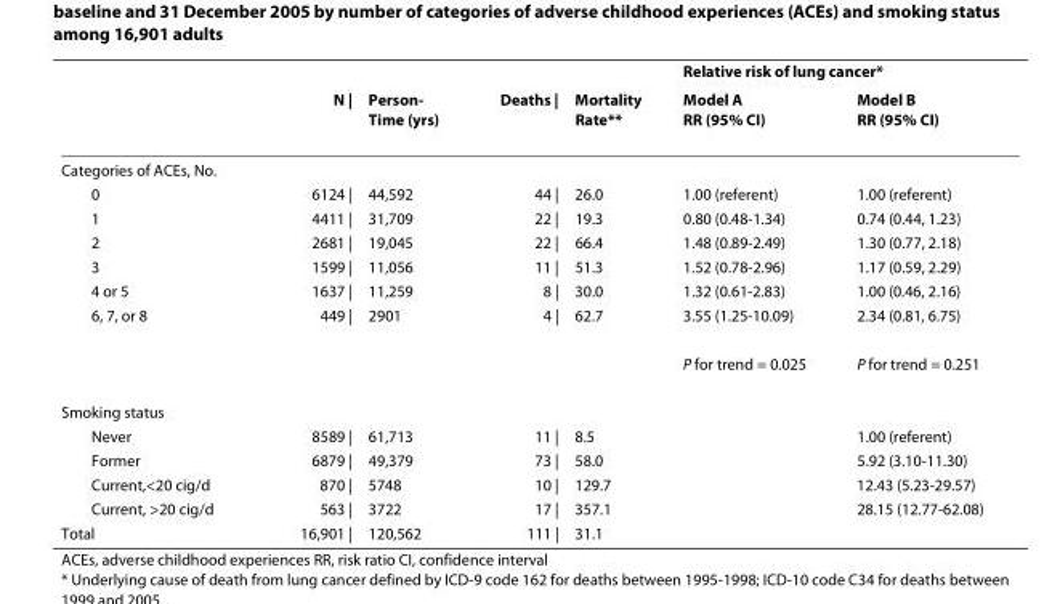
<table><thead><tr><td rowspan="2"></td><td rowspan="2">N |</td><td rowspan="2">Person- Time (yrs)</td><td rowspan="2">Deaths |</td><td rowspan="2">Mortality Rate**</td><td colspan="2">Relative risk of lung cancer*</td></tr><tr><td>Model A RR (95% CI)</td><td>Model B RR (95% CI)</td></tr></thead><tbody><tr><td colspan="7">Categories of ACEs, No.</td></tr><tr><td>0</td><td>6124 |</td><td>44,592</td><td>44 |</td><td>26.0</td><td>1.00 (referent)</td><td>1.00 (referent)</td></tr><tr><td>1</td><td>4411 |</td><td>31,709</td><td>22 |</td><td>19.3</td><td>0.80 (0.48-1.34)</td><td>0.74 (0.44, 1.23)</td></tr><tr><td>2</td><td>2681 |</td><td>19,045</td><td>22 |</td><td>66.4</td><td>1.48 (0.89-2.49)</td><td>1.30 (0.77, 2.18)</td></tr><tr><td>3</td><td>1599 |</td><td>11,056</td><td>11 |</td><td>51.3</td><td>1.52 (0.78-2.96)</td><td>1.17 (0.59, 2.29)</td></tr><tr><td>4 or 5</td><td>1637 |</td><td>11,259</td><td>8 |</td><td>30.0</td><td>1.32 (0.61-2.83)</td><td>1.00 (0.46, 2.16)</td></tr><tr><td rowspan="2">6, 7, or 8</td><td>449 |</td><td>2901</td><td>4 |</td><td>62.7</td><td>3.55 (1.25-10.09)</td><td>2.34 (0.81, 6.75)</td></tr><tr><td></td><td></td><td></td><td></td><td>P for trend = 0.025</td><td>P for trend = 0.251</td></tr><tr><td colspan="7">Smoking status</td></tr><tr><td>Never</td><td>8589 |</td><td>61,713</td><td>11 |</td><td>8.5</td><td></td><td>1.00 (referent)</td></tr><tr><td>Former</td><td>6879 |</td><td>49,379</td><td>73 |</td><td>58.0</td><td></td><td>5.92 (3.10-11.30)</td></tr><tr><td>Current,&lt;20 cig/d</td><td>870 |</td><td>5748</td><td>10 |</td><td>129.7</td><td></td><td>12.43 (5.23-29.57)</td></tr><tr><td>Current, &gt;20 cig/d</td><td>563 |</td><td>3722</td><td>17 |</td><td>357.1</td><td></td><td>28.15 (12.77-62.08)</td></tr><tr><td>Total</td><td>16,901 |</td><td>120,562</td><td>111 |</td><td>31.1</td><td></td><td></td></tr></tbody></table>